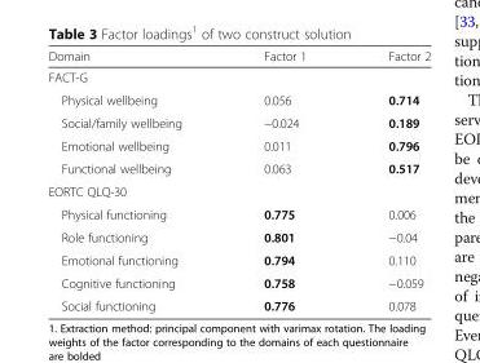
<table><thead><tr><td>Domain</td><td>Factor 1</td><td>Factor 2</td></tr></thead><tbody><tr><td colspan="3">FACT-G</td></tr><tr><td>Physical wellbeing</td><td>0.056</td><td>0.714</td></tr><tr><td>Social/family wellbeing</td><td>−0.024</td><td>0.189</td></tr><tr><td>Emotional wellbeing</td><td>0.011</td><td>0.796</td></tr><tr><td>Functional wellbeing</td><td>0.063</td><td>0.517</td></tr><tr><td colspan="3">EORTC QLQ-30</td></tr><tr><td>Physical functioning</td><td>0.775</td><td>0.006</td></tr><tr><td>Role functioning</td><td>0.801</td><td>−0.04</td></tr><tr><td>Emotional functioning</td><td>0.794</td><td>0.110</td></tr><tr><td>Cognitive functioning</td><td>0.758</td><td>−0.059</td></tr><tr><td>Social functioning</td><td>0.776</td><td>0.078</td></tr></tbody></table>